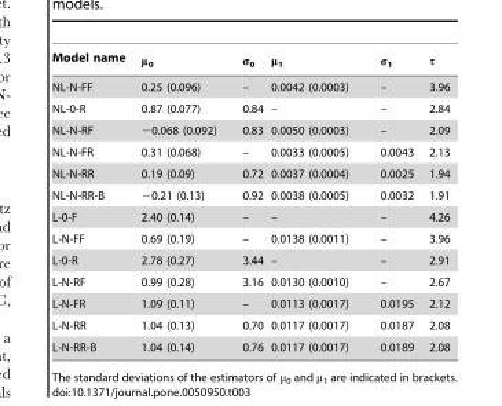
<table><thead><tr><td>Model name</td><td>μ<sub>0</sub></td><td>σ<sub>0</sub></td><td>μ<sub>1</sub></td><td>σ<sub>1</sub></td><td>τ</td></tr></thead><tbody><tr><td>NL-N-FF</td><td>0.25 (0.096)</td><td>–</td><td>0.0042 (0.0003)</td><td>–</td><td>3.96</td></tr><tr><td>NL-0-R</td><td>0.87 (0.077)</td><td>0.84</td><td>–</td><td>–</td><td>2.84</td></tr><tr><td>NL-N-RF</td><td>−0.068 (0.092)</td><td>0.83</td><td>0.0050 (0.0003)</td><td>–</td><td>2.09</td></tr><tr><td>NL-N-FR</td><td>0.31 (0.068)</td><td>–</td><td>0.0033 (0.0005)</td><td>0.0043</td><td>2.13</td></tr><tr><td>NL-N-RR</td><td>0.19 (0.09)</td><td>0.72</td><td>0.0037 (0.0004)</td><td>0.0025</td><td>1.94</td></tr><tr><td>NL-N-RR-B</td><td>−0.21 (0.13)</td><td>0.92</td><td>0.0038 (0.0005)</td><td>0.0032</td><td>1.91</td></tr><tr><td>L-0-F</td><td>2.40 (0.14)</td><td>–</td><td>–</td><td>–</td><td>4.26</td></tr><tr><td>L-N-FF</td><td>0.69 (0.19)</td><td>–</td><td>0.0138 (0.0011)</td><td>–</td><td>3.96</td></tr><tr><td>L-0-R</td><td>2.78 (0.27)</td><td>3.44</td><td>–</td><td>–</td><td>2.91</td></tr><tr><td>L-N-RF</td><td>0.99 (0.28)</td><td>3.16</td><td>0.0130 (0.0010)</td><td>–</td><td>2.67</td></tr><tr><td>L-N-FR</td><td>1.09 (0.11)</td><td>–</td><td>0.0113 (0.0017)</td><td>0.0195</td><td>2.12</td></tr><tr><td>L-N-RR</td><td>1.04 (0.13)</td><td>0.70</td><td>0.0117 (0.0017)</td><td>0.0187</td><td>2.08</td></tr><tr><td>L-N-RR-B</td><td>1.04 (0.14)</td><td>0.76</td><td>0.0117 (0.0017)</td><td>0.0189</td><td>2.08</td></tr></tbody></table>